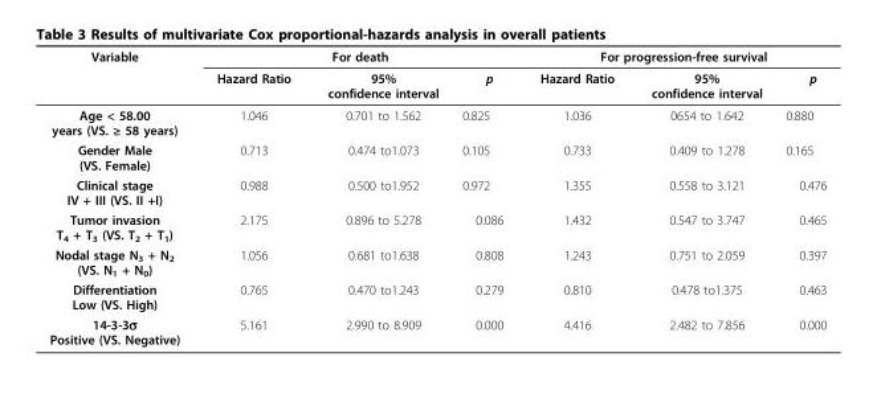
<table><thead><tr><td rowspan="2">Variable</td><td colspan="3">For death</td><td colspan="3">For progression-free survival</td></tr><tr><td>Hazard Ratio</td><td>95% confidence interval</td><td>p</td><td>Hazard Ratio</td><td>95% confidence interval</td><td>p</td></tr></thead><tbody><tr><td>Age &lt; 58.00 years (VS. ≥ 58 years)</td><td>1.046</td><td>0.701 to 1.562</td><td>0.825</td><td>1.036</td><td>0654 to 1.642</td><td>0.880</td></tr><tr><td>Gender Male (VS. Female)</td><td>0.713</td><td>0.474 to1.073</td><td>0.105</td><td>0.733</td><td>0.409 to 1.278</td><td>0.165</td></tr><tr><td>Clinical stage IV + III (VS. II +I)</td><td>0.988</td><td>0.500 to1.952</td><td>0.972</td><td>1.355</td><td>0.558 to 3.121</td><td>0.476</td></tr><tr><td>Tumor invasion T<sub>4</sub> + T<sub>3</sub> (VS. T<sub>2</sub> + T<sub>1</sub>)</td><td>2.175</td><td>0.896 to 5.278</td><td>0.086</td><td>1.432</td><td>0.547 to 3.747</td><td>0.465</td></tr><tr><td>Nodal stage N<sub>3</sub> + N<sub>2</sub> (VS. N<sub>1</sub> + N<sub>0</sub>)</td><td>1.056</td><td>0.681 to1.638</td><td>0.808</td><td>1.243</td><td>0.751 to 2.059</td><td>0.397</td></tr><tr><td>Differentiation Low (VS. High)</td><td>0.765</td><td>0.470 to1.243</td><td>0.279</td><td>0.810</td><td>0.478 to1.375</td><td>0.463</td></tr><tr><td>14-3-3σ Positive (VS. Negative)</td><td>5.161</td><td>2.990 to 8.909</td><td>0.000</td><td>4.416</td><td>2.482 to 7.856</td><td>0.000</td></tr></tbody></table>